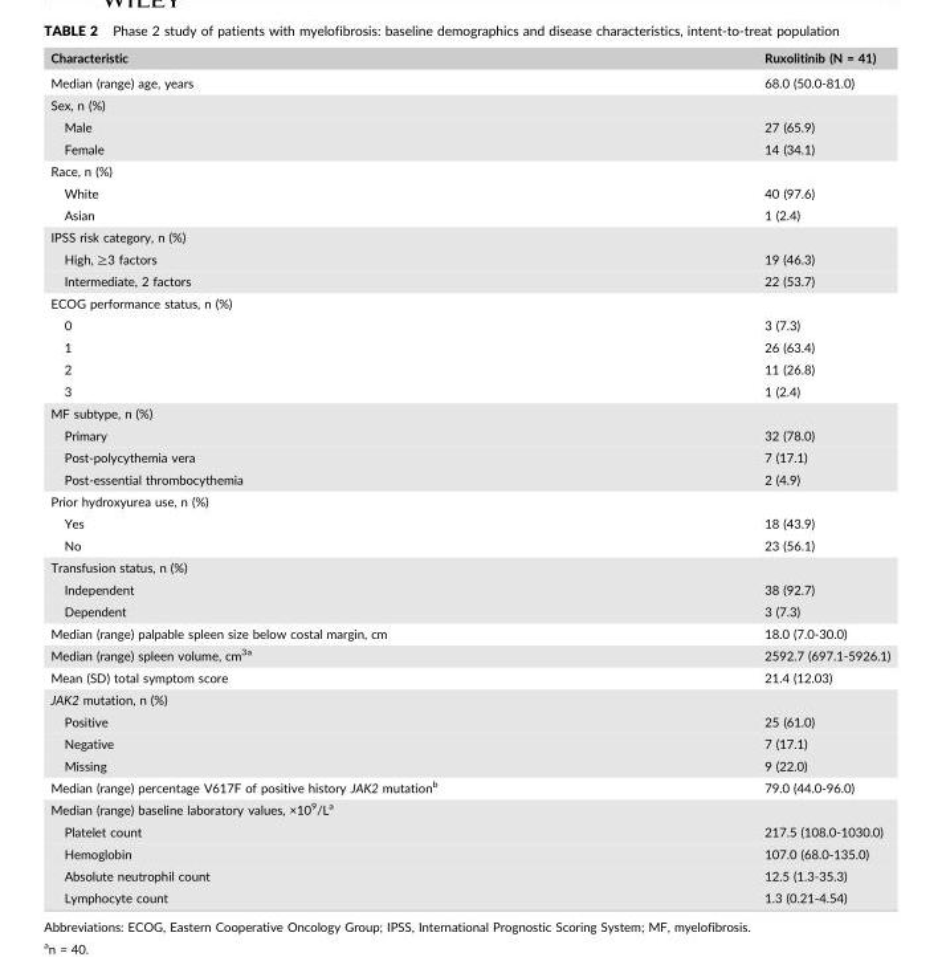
<table><thead><tr><td>Characteristic</td><td>Ruxolitinib (N = 41)</td></tr></thead><tbody><tr><td>Median (range) age, years</td><td>68.0 (50.0‐81.0)</td></tr><tr><td colspan="2">Sex, n (%)</td></tr><tr><td>Male</td><td>27 (65.9)</td></tr><tr><td>Female</td><td>14 (34.1)</td></tr><tr><td colspan="2">Race, n (%)</td></tr><tr><td>White</td><td>40 (97.6)</td></tr><tr><td>Asian</td><td>1 (2.4)</td></tr><tr><td colspan="2">IPSS risk category, n (%)</td></tr><tr><td>High, ≥3 factors</td><td>19 (46.3)</td></tr><tr><td>Intermediate, 2 factors</td><td>22 (53.7)</td></tr><tr><td colspan="2">ECOG performance status, n (%)</td></tr><tr><td>0</td><td>3 (7.3)</td></tr><tr><td>1</td><td>26 (63.4)</td></tr><tr><td>2</td><td>11 (26.8)</td></tr><tr><td>3</td><td>1 (2.4)</td></tr><tr><td colspan="2">MF subtype, n (%)</td></tr><tr><td>Primary</td><td>32 (78.0)</td></tr><tr><td>Post‐polycythemia vera</td><td>7 (17.1)</td></tr><tr><td>Post‐essential thrombocythemia</td><td>2 (4.9)</td></tr><tr><td colspan="2">Prior hydroxyurea use, n (%)</td></tr><tr><td>Yes</td><td>18 (43.9)</td></tr><tr><td>No</td><td>23 (56.1)</td></tr><tr><td colspan="2">Transfusion status, n (%)</td></tr><tr><td>Independent</td><td>38 (92.7)</td></tr><tr><td>Dependent</td><td>3 (7.3)</td></tr><tr><td>Median (range) palpable spleen size below costal margin, cm</td><td>18.0 (7.0‐30.0)</td></tr><tr><td>Median (range) spleen volume, cm<sup>3</sup>a</td><td>2592.7 (697.1‐5926.1)</td></tr><tr><td>Mean (SD) total symptom score</td><td>21.4 (12.03)</td></tr><tr><td colspan="2">JAK2 mutation, n (%)</td></tr><tr><td>Positive</td><td>25 (61.0)</td></tr><tr><td>Negative</td><td>7 (17.1)</td></tr><tr><td>Missing</td><td>9 (22.0)</td></tr><tr><td>Median (range) percentage V617F of positive history JAK2 mutation<sup>b</sup></td><td>79.0 (44.0‐96.0)</td></tr><tr><td colspan="2">Median (range) baseline laboratory values, ×10<sup>9</sup>/L<sup>a</sup></td></tr><tr><td>Platelet count</td><td>217.5 (108.0‐1030.0)</td></tr><tr><td>Hemoglobin</td><td>107.0 (68.0‐135.0)</td></tr><tr><td>Absolute neutrophil count</td><td>12.5 (1.3‐35.3)</td></tr><tr><td>Lymphocyte count</td><td>1.3 (0.21‐4.54)</td></tr></tbody></table>